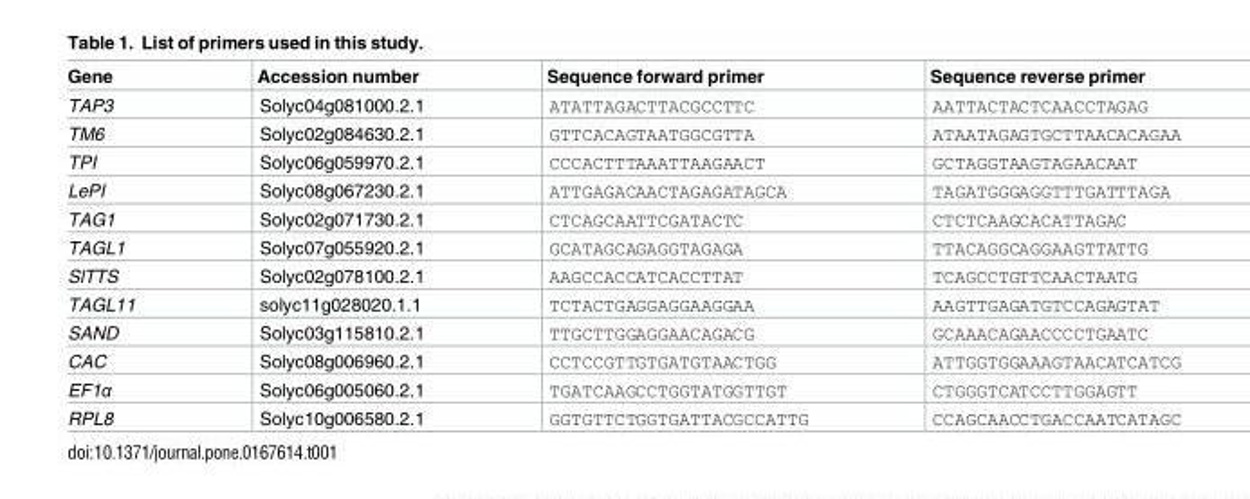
<table><thead><tr><td>Gene</td><td>Accession number</td><td>Sequence forward primer</td><td>Sequence reverse primer</td></tr></thead><tbody><tr><td>TAP3</td><td>Solyc04g081000.2.1</td><td>ATATTAGACTTACGCCTTC</td><td>AATTACTACTCAACCTAGAG</td></tr><tr><td>TM6</td><td>Solyc02g084630.2.1</td><td>GTTCACAGTAATGGCGTTA</td><td>ATAATAGAGTGCTTAACACAGAA</td></tr><tr><td>TPI</td><td>Solyc06g059970.2.1</td><td>CCCACTTTAAATTAAGAACT</td><td>GCTAGGTAAGTAGAACAAT</td></tr><tr><td>LePI</td><td>Solyc08g067230.2.1</td><td>ATTGAGACAACTAGAGATAGCA</td><td>TAGATGGGAGGTTTGATTTAGA</td></tr><tr><td>TAG1</td><td>Solyc02g071730.2.1</td><td>CTCAGCAATTCGATACTC</td><td>CTCTCAAGCACATTAGAC</td></tr><tr><td>TAGL1</td><td>Solyc07g055920.2.1</td><td>GCATAGCAGAGGTAGAGA</td><td>TTACAGGCAGGAAGTTATTG</td></tr><tr><td>SlTTS</td><td>Solyc02g078100.2.1</td><td>AAGCCACCATCACCTTAT</td><td>TCAGCCTGTTCAACTAATG</td></tr><tr><td>TAGL11</td><td>solyc11g028020.1.1</td><td>TCTACTGAGGAGGAAGGAA</td><td>AAGTTGAGATGTCCAGAGTAT</td></tr><tr><td>SAND</td><td>Solyc03g115810.2.1</td><td>TTGCTTGGAGGAACAGACG</td><td>GCAAACAGAACCCCTGAATC</td></tr><tr><td>CAC</td><td>Solyc08g006960.2.1</td><td>CCTCCGTTGTGATGTAACTGG</td><td>ATTGGTGGAAAGTAACATCATCG</td></tr><tr><td>EF1α</td><td>Solyc06g005060.2.1</td><td>TGATCAAGCCTGGTATGGTTGT</td><td>CTGGGTCATCCTTGGAGTT</td></tr><tr><td>RPL8</td><td>Solyc10g006580.2.1</td><td>GGTGTTCTGGTGATTACGCCATTG</td><td>CCAGCAACCTGACCAATCATAGC</td></tr></tbody></table>